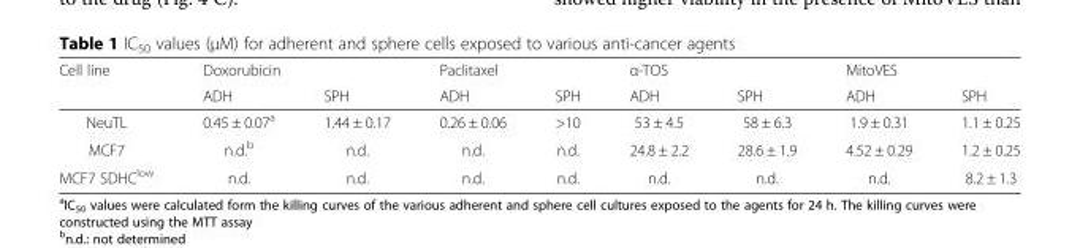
<table><thead><tr><td rowspan="2">Cell line</td><td colspan="2">Doxorubicin</td><td colspan="2">Paclitaxel</td><td colspan="2">α-TOS</td><td colspan="2">MitoVES</td></tr><tr><td>ADH</td><td>SPH</td><td>ADH</td><td>SPH</td><td>ADH</td><td>SPH</td><td>ADH</td><td>SPH</td></tr></thead><tbody><tr><td>NeuTL</td><td>0.45 ± 0.07<sup>a</sup></td><td>1.44 ± 0.17</td><td>0.26 ± 0.06</td><td>&gt;10</td><td>53 ± 4.5</td><td>58 ± 6.3</td><td>1.9 ± 0.31</td><td>1.1 ± 0.25</td></tr><tr><td>MCF7</td><td>n.d.<sup>b</sup></td><td>n.d.</td><td>n.d.</td><td>n.d.</td><td>24.8 ± 2.2</td><td>28.6 ± 1.9</td><td>4.52 ± 0.29</td><td>1.2 ± 0.25</td></tr><tr><td>MCF7 SDHC<sup>low</sup></td><td>n.d.</td><td>n.d.</td><td>n.d.</td><td>n.d.</td><td>n.d.</td><td>n.d.</td><td>n.d.</td><td>8.2 ± 1.3</td></tr></tbody></table>